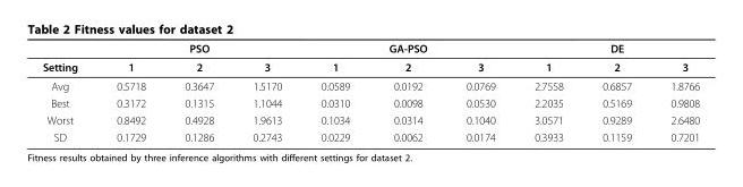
<table><thead><tr><td></td><td></td><td>PSO</td><td></td><td></td><td>GA-PSO</td><td></td><td></td><td>DE</td><td></td></tr></thead><tbody><tr><td>Setting</td><td>1</td><td>2</td><td>3</td><td>1</td><td>2</td><td>3</td><td>1</td><td>2</td><td>3</td></tr><tr><td>Avg</td><td>0.5718</td><td>0.3647</td><td>1.5170</td><td>0.0589</td><td>0.0192</td><td>0.0769</td><td>2.7558</td><td>0.6857</td><td>1.8766</td></tr><tr><td>Best</td><td>0.3172</td><td>0.1315</td><td>1.1044</td><td>0.0310</td><td>0.0098</td><td>0.0530</td><td>2.2035</td><td>0.5169</td><td>0.9808</td></tr><tr><td>Worst</td><td>0.8492</td><td>0.4928</td><td>1.9613</td><td>0.1034</td><td>0.0314</td><td>0.1040</td><td>3.0571</td><td>0.9289</td><td>2.6480</td></tr><tr><td>SD</td><td>0.1729</td><td>0.1286</td><td>0.2743</td><td>0.0229</td><td>0.0062</td><td>0.0174</td><td>0.3933</td><td>0.1159</td><td>0.7201</td></tr></tbody></table>